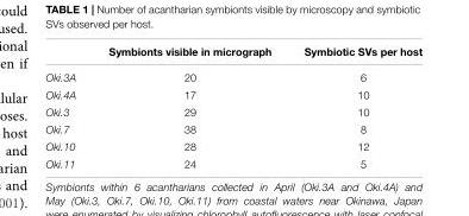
<table><thead><tr><td></td><td>Symbionts visible in micrograph</td><td>Symbiotic SVs per host</td></tr></thead><tbody><tr><td>Oki.3A</td><td>20</td><td>6</td></tr><tr><td>Oki.4A</td><td>17</td><td>10</td></tr><tr><td>Oki.3</td><td>29</td><td>10</td></tr><tr><td>Oki.7</td><td>38</td><td>8</td></tr><tr><td>Oki.10</td><td>28</td><td>12</td></tr><tr><td>Oki.11</td><td>24</td><td>5</td></tr></tbody></table>